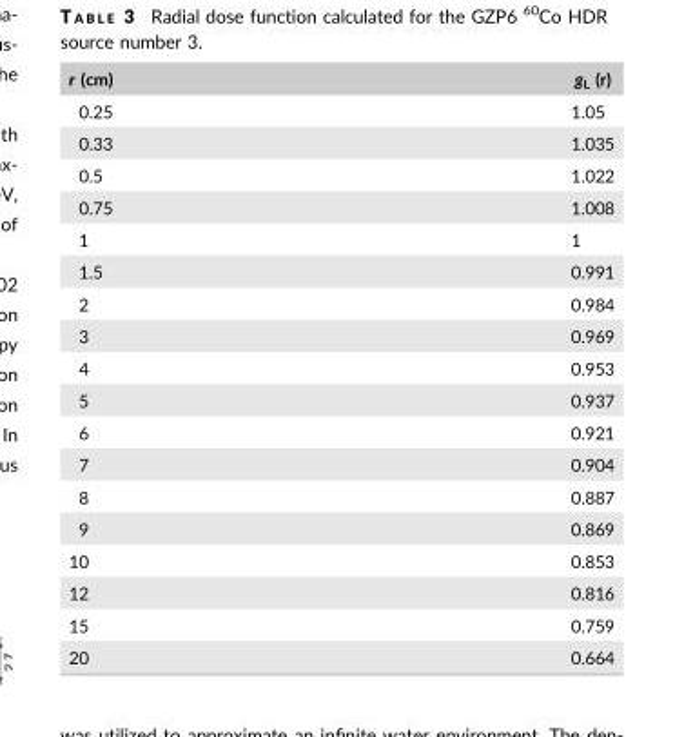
<table><thead><tr><td>r (cm)</td><td>g<sub>L</sub> (r)</td></tr></thead><tbody><tr><td>0.25</td><td>1.05</td></tr><tr><td>0.33</td><td>1.035</td></tr><tr><td>0.5</td><td>1.022</td></tr><tr><td>0.75</td><td>1.008</td></tr><tr><td>1</td><td>1</td></tr><tr><td>1.5</td><td>0.991</td></tr><tr><td>2</td><td>0.984</td></tr><tr><td>3</td><td>0.969</td></tr><tr><td>4</td><td>0.953</td></tr><tr><td>5</td><td>0.937</td></tr><tr><td>6</td><td>0.921</td></tr><tr><td>7</td><td>0.904</td></tr><tr><td>8</td><td>0.887</td></tr><tr><td>9</td><td>0.869</td></tr><tr><td>10</td><td>0.853</td></tr><tr><td>12</td><td>0.816</td></tr><tr><td>15</td><td>0.759</td></tr><tr><td>20</td><td>0.664</td></tr></tbody></table>